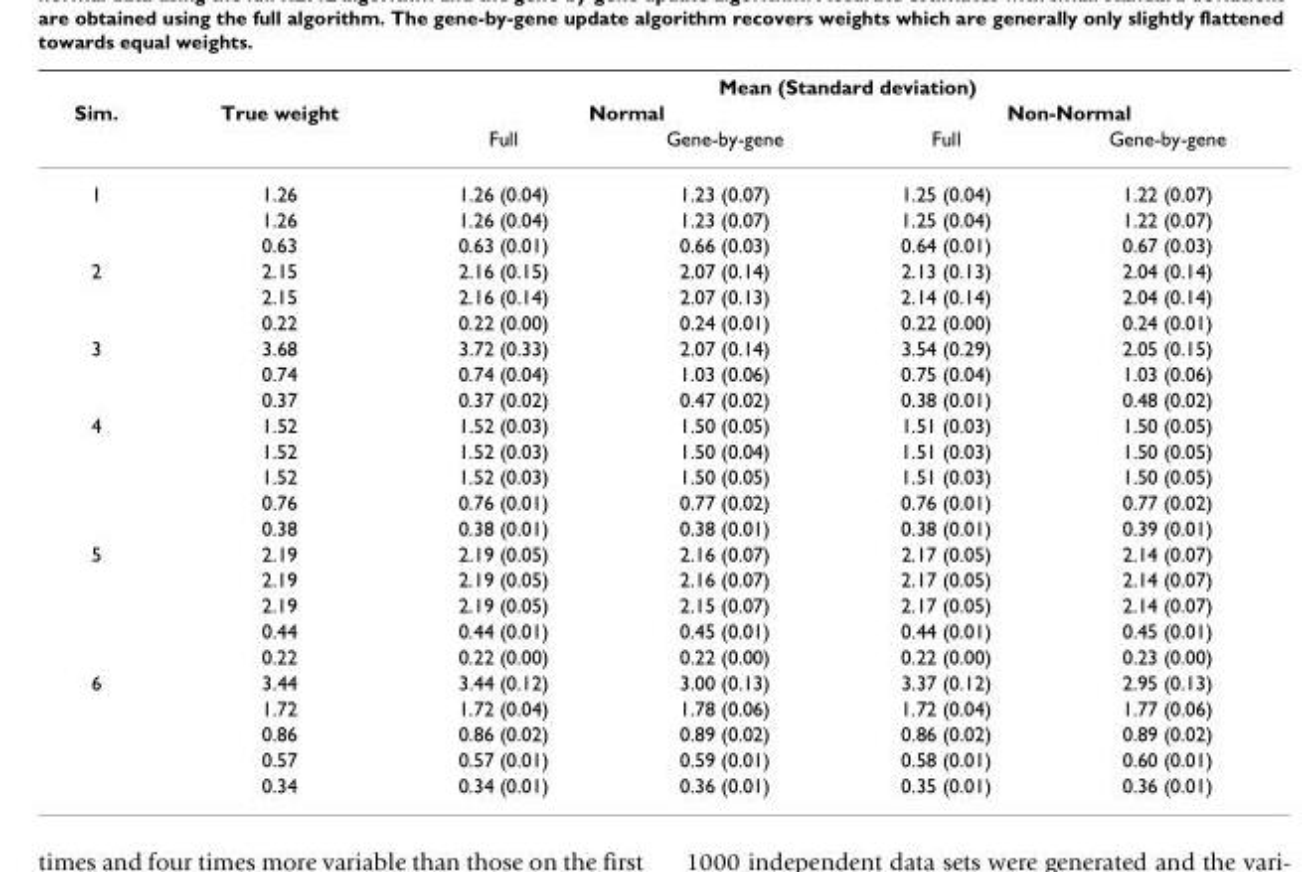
<table><thead><tr><td rowspan="3">Sim.</td><td rowspan="3">True weight</td><td colspan="4">Mean (Standard deviation)</td></tr><tr><td colspan="2">Normal</td><td colspan="2">Non-Normal</td></tr><tr><td>Full</td><td>Gene-by-gene</td><td>Full</td><td>Gene-by-gene</td></tr></thead><tbody><tr><td rowspan="3">1</td><td>1.26</td><td>1.26 (0.04)</td><td>1.23 (0.07)</td><td>1.25 (0.04)</td><td>1.22 (0.07)</td></tr><tr><td>1.26</td><td>1.26 (0.04)</td><td>1.23 (0.07)</td><td>1.25 (0.04)</td><td>1.22 (0.07)</td></tr><tr><td>0.63</td><td>0.63 (0.01)</td><td>0.66 (0.03)</td><td>0.64 (0.01)</td><td>0.67 (0.03)</td></tr><tr><td rowspan="3">2</td><td>2.15</td><td>2.16 (0.15)</td><td>2.07 (0.14)</td><td>2.13 (0.13)</td><td>2.04 (0.14)</td></tr><tr><td>2.15</td><td>2.16 (0.14)</td><td>2.07 (0.13)</td><td>2.14 (0.14)</td><td>2.04 (0.14)</td></tr><tr><td>0.22</td><td>0.22 (0.00)</td><td>0.24 (0.01)</td><td>0.22 (0.00)</td><td>0.24 (0.01)</td></tr><tr><td rowspan="3">3</td><td>3.68</td><td>3.72 (0.33)</td><td>2.07 (0.14)</td><td>3.54 (0.29)</td><td>2.05 (0.15)</td></tr><tr><td>0.74</td><td>0.74 (0.04)</td><td>1.03 (0.06)</td><td>0.75 (0.04)</td><td>1.03 (0.06)</td></tr><tr><td>0.37</td><td>0.37 (0.02)</td><td>0.47 (0.02)</td><td>0.38 (0.01)</td><td>0.48 (0.02)</td></tr><tr><td rowspan="5">4</td><td>1.52</td><td>1.52 (0.03)</td><td>1.50 (0.05)</td><td>1.51 (0.03)</td><td>1.50 (0.05)</td></tr><tr><td>1.52</td><td>1.52 (0.03)</td><td>1.50 (0.04)</td><td>1.51 (0.03)</td><td>1.50 (0.05)</td></tr><tr><td>1.52</td><td>1.52 (0.03)</td><td>1.50 (0.05)</td><td>1.51 (0.03)</td><td>1.50 (0.05)</td></tr><tr><td>0.76</td><td>0.76 (0.01)</td><td>0.77 (0.02)</td><td>0.76 (0.01)</td><td>0.77 (0.02)</td></tr><tr><td>0.38</td><td>0.38 (0.01)</td><td>0.38 (0.01)</td><td>0.38 (0.01)</td><td>0.39 (0.01)</td></tr><tr><td rowspan="5">5</td><td>2.19</td><td>2.19 (0.05)</td><td>2.16 (0.07)</td><td>2.17 (0.05)</td><td>2.14 (0.07)</td></tr><tr><td>2.19</td><td>2.19 (0.05)</td><td>2.16 (0.07)</td><td>2.17 (0.05)</td><td>2.14 (0.07)</td></tr><tr><td>2.19</td><td>2.19 (0.05)</td><td>2.15 (0.07)</td><td>2.17 (0.05)</td><td>2.14 (0.07)</td></tr><tr><td>0.44</td><td>0.44 (0.01)</td><td>0.45 (0.01)</td><td>0.44 (0.01)</td><td>0.45 (0.01)</td></tr><tr><td>0.22</td><td>0.22 (0.00)</td><td>0.22 (0.00)</td><td>0.22 (0.00)</td><td>0.23 (0.00)</td></tr><tr><td rowspan="5">6</td><td>3.44</td><td>3.44 (0.12)</td><td>3.00 (0.13)</td><td>3.37 (0.12)</td><td>2.95 (0.13)</td></tr><tr><td>1.72</td><td>1.72 (0.04)</td><td>1.78 (0.06)</td><td>1.72 (0.04)</td><td>1.77 (0.06)</td></tr><tr><td>0.86</td><td>0.86 (0.02)</td><td>0.89 (0.02)</td><td>0.86 (0.02)</td><td>0.89 (0.02)</td></tr><tr><td>0.57</td><td>0.57 (0.01)</td><td>0.59 (0.01)</td><td>0.58 (0.01)</td><td>0.60 (0.01)</td></tr><tr><td>0.34</td><td>0.34 (0.01)</td><td>0.36 (0.01)</td><td>0.35 (0.01)</td><td>0.36 (0.01)</td></tr></tbody></table>